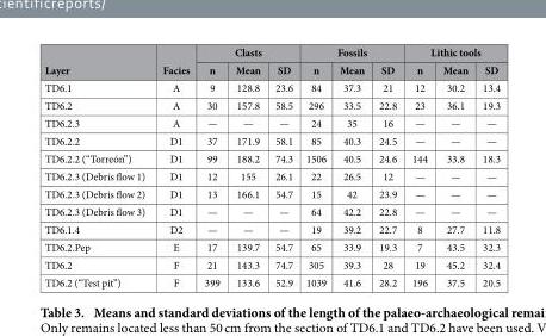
<table><thead><tr><td rowspan="2">Layer</td><td rowspan="2">Facies</td><td colspan="3">Clasts</td><td colspan="3">Fossils</td><td colspan="3">Lithic tools</td></tr><tr><td>n</td><td>Mean</td><td>SD</td><td>n</td><td>Mean</td><td>SD</td><td>n</td><td>Mean</td><td>SD</td></tr></thead><tbody><tr><td>TD6.1</td><td>A</td><td>9</td><td>128.8</td><td>23.6</td><td>84</td><td>37.3</td><td>21</td><td>12</td><td>30.2</td><td>13.4</td></tr><tr><td>TD6.2</td><td>A</td><td>30</td><td>157.8</td><td>58.5</td><td>296</td><td>33.5</td><td>22.8</td><td>23</td><td>36.1</td><td>19.3</td></tr><tr><td>TD6.2.3</td><td>A</td><td>—</td><td>—</td><td>—</td><td>24</td><td>35</td><td>16</td><td>—</td><td>—</td><td>—</td></tr><tr><td>TD6.2.2</td><td>D1</td><td>37</td><td>171.9</td><td>58.1</td><td>85</td><td>40.3</td><td>24.5</td><td>—</td><td>—</td><td>—</td></tr><tr><td>TD6.2.2 (“Torreón”)</td><td>D1</td><td>99</td><td>188.2</td><td>74.3</td><td>1506</td><td>40.5</td><td>24.6</td><td>144</td><td>33.8</td><td>18.3</td></tr><tr><td>TD6.2.3 (Debris flow 1)</td><td>D1</td><td>12</td><td>155</td><td>26.1</td><td>22</td><td>26.5</td><td>12</td><td>—</td><td>—</td><td>—</td></tr><tr><td>TD6.2.3 (Debris flow 2)</td><td>D1</td><td>13</td><td>166.1</td><td>54.7</td><td>15</td><td>42</td><td>23.9</td><td>—</td><td>—</td><td>—</td></tr><tr><td>TD6.2.3 (Debris flow 3)</td><td>D1</td><td>—</td><td>—</td><td>—</td><td>64</td><td>42.2</td><td>22.8</td><td>—</td><td>—</td><td>—</td></tr><tr><td>TD6.1.4</td><td>D2</td><td>—</td><td>—</td><td>—</td><td>19</td><td>39.2</td><td>22.7</td><td>8</td><td>27.7</td><td>11.8</td></tr><tr><td>TD6.2.Pep</td><td>E</td><td>17</td><td>139.7</td><td>54.7</td><td>65</td><td>33.9</td><td>19.3</td><td>7</td><td>43.5</td><td>32.3</td></tr><tr><td>TD6.2</td><td>F</td><td>21</td><td>143.3</td><td>74.7</td><td>305</td><td>39.3</td><td>28</td><td>19</td><td>45.2</td><td>32.4</td></tr><tr><td>TD6.2 (“Test pit”)</td><td>F</td><td>399</td><td>133.6</td><td>52.9</td><td>1039</td><td>41.6</td><td>28.2</td><td>196</td><td>37.5</td><td>20.5</td></tr></tbody></table>